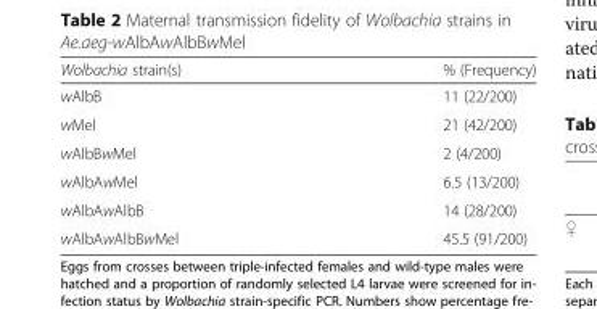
<table><thead><tr><td>Wolbachia strain(s)</td><td>% (Frequency)</td></tr></thead><tbody><tr><td>wAlbB</td><td>11 (22/200)</td></tr><tr><td>wMel</td><td>21 (42/200)</td></tr><tr><td>wAlbBwMel</td><td>2 (4/200)</td></tr><tr><td>wAlbAwMel</td><td>6.5 (13/200)</td></tr><tr><td>wAlbAwAlbB</td><td>14 (28/200)</td></tr><tr><td>wAlbAwAlbBwMel</td><td>45.5 (91/200)</td></tr></tbody></table>